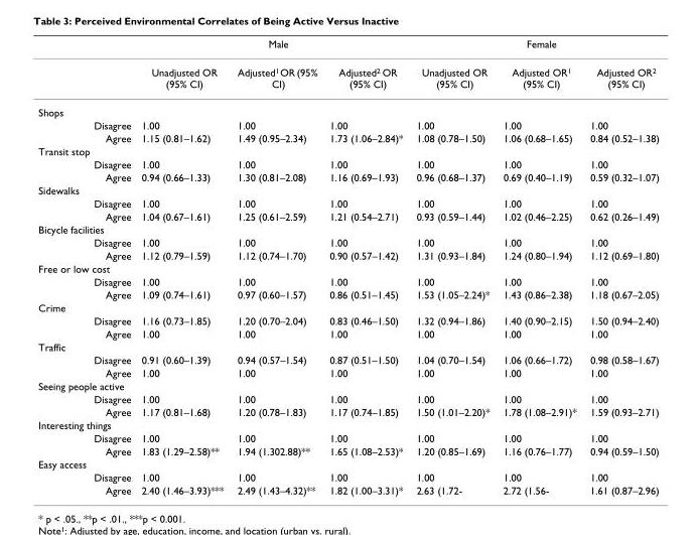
<table><thead><tr><td></td><td></td><td>Male</td><td></td><td></td><td>Female</td><td></td></tr></thead><tbody><tr><td></td><td>Unadjusted OR (95% CI)</td><td>Adjusted<sup>1</sup> OR (95% CI)</td><td>Adjusted<sup>2</sup> OR (95% CI)</td><td>Unadjusted OR (95% CI)</td><td>Adjusted OR<sup>1</sup> (95% CI)</td><td>Adjusted OR<sup>2</sup> (95% CI)</td></tr><tr><td colspan="7">Shops</td></tr><tr><td>Disagree</td><td>1.00</td><td>1.00</td><td>1.00</td><td>1.00</td><td>1.00</td><td>1.00</td></tr><tr><td>Agree</td><td>1.15 (0.81–1.62)</td><td>1.49 (0.95–2.34)</td><td>1.73 (1.06–2.84)*</td><td>1.08 (0.78–1.50)</td><td>1.06 (0.68–1.65)</td><td>0.84 (0.52–1.38)</td></tr><tr><td colspan="7">Transit stop</td></tr><tr><td>Disagree</td><td>1.00</td><td>1.00</td><td>1.00</td><td>1.00</td><td>1.00</td><td>1.00</td></tr><tr><td>Agree</td><td>0.94 (0.66–1.33)</td><td>1.30 (0.81–2.08)</td><td>1.16 (0.69–1.93)</td><td>0.96 (0.68–1.37)</td><td>0.69 (0.40–1.19)</td><td>0.59 (0.32–1.07)</td></tr><tr><td colspan="7">Sidewalks</td></tr><tr><td>Disagree</td><td>1.00</td><td>1.00</td><td>1.00</td><td>1.00</td><td>1.00</td><td>1.00</td></tr><tr><td>Agree</td><td>1.04 (0.67–1.61)</td><td>1.25 (0.61–2.59)</td><td>1.21 (0.54–2.71)</td><td>0.93 (0.59–1.44)</td><td>1.02 (0.46–2.25)</td><td>0.62 (0.26–1.49)</td></tr><tr><td colspan="7">Bicycle facilities</td></tr><tr><td>Disagree</td><td>1.00</td><td>1.00</td><td>1.00</td><td>1.00</td><td>1.00</td><td>1.00</td></tr><tr><td>Agree</td><td>1.12 (0.79–1.59)</td><td>1.12 (0.74–1.70)</td><td>0.90 (0.57–1.42)</td><td>1.31 (0.93–1.84)</td><td>1.24 (0.80–1.94)</td><td>1.12 (0.69–1.80)</td></tr><tr><td colspan="7">Free or low cost</td></tr><tr><td>Disagree</td><td>1.00</td><td>1.00</td><td>1.00</td><td>1.00</td><td>1.00</td><td>1.00</td></tr><tr><td>Agree</td><td>1.09 (0.74–1.61)</td><td>0.97 (0.60–1.57)</td><td>0.86 (0.51–1.45)</td><td>1.53 (1.05–2.24)*</td><td>1.43 (0.86–2.38)</td><td>1.18 (0.67–2.05)</td></tr><tr><td colspan="7">Crime</td></tr><tr><td>Disagree</td><td>1.16 (0.73–1.85)</td><td>1.20 (0.70–2.04)</td><td>0.83 (0.46–1.50)</td><td>1.32 (0.94–1.86)</td><td>1.40 (0.90–2.15)</td><td>1.50 (0.94–2.40)</td></tr><tr><td>Agree</td><td>1.00</td><td>1.00</td><td>1.00</td><td>1.00</td><td>1.00</td><td>1.00</td></tr><tr><td colspan="7">Traffic</td></tr><tr><td>Disagree</td><td>0.91 (0.60–1.39)</td><td>0.94 (0.57–1.54)</td><td>0.87 (0.51–1.50)</td><td>1.04 (0.70–1.54)</td><td>1.06 (0.66–1.72)</td><td>0.98 (0.58–1.67)</td></tr><tr><td>Agree</td><td>1.00</td><td>1.00</td><td>1.00</td><td>1.00</td><td>1.00</td><td>1.00</td></tr><tr><td colspan="7">Seeing people active</td></tr><tr><td>Disagree</td><td>1.00</td><td>1.00</td><td>1.00</td><td>1.00</td><td>1.00</td><td>1.00</td></tr><tr><td>Agree</td><td>1.17 (0.81–1.68)</td><td>1.20 (0.78–1.83)</td><td>1.17 (0.74–1.85)</td><td>1.50 (1.01–2.20)*</td><td>1.78 (1.08–2.91)*</td><td>1.59 (0.93–2.71)</td></tr><tr><td colspan="7">Interesting things</td></tr><tr><td>Disagree</td><td>1.00</td><td>1.00</td><td>1.00</td><td>1.00</td><td>1.00</td><td>1.00</td></tr><tr><td>Agree</td><td>1.83 (1.29–2.58)**</td><td>1.94 (1.302.88)**</td><td>1.65 (1.08–2.53)*</td><td>1.20 (0.85–1.69)</td><td>1.16 (0.76–1.77)</td><td>0.94 (0.59–1.50)</td></tr><tr><td colspan="7">Easy access</td></tr><tr><td>Disagree</td><td>1.00</td><td>1.00</td><td>1.00</td><td>1.00</td><td>1.00</td><td>1.00</td></tr><tr><td>Agree</td><td>2.40 (1.46–3.93)***</td><td>2.49 (1.43–4.32)**</td><td>1.82 (1.00–3.31)*</td><td>2.63 (1.72-</td><td>2.72 (1.56-</td><td>1.61 (0.87–2.96)</td></tr></tbody></table>